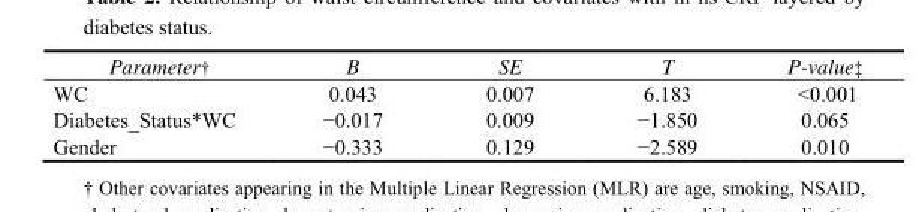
<table><thead><tr><td>Parameter†</td><td>B</td><td>SE</td><td>T</td><td>P-value‡</td></tr></thead><tbody><tr><td>WC</td><td>0.043</td><td>0.007</td><td>6.183</td><td>&lt;0.001</td></tr><tr><td>Diabetes_Status*WC</td><td>−0.017</td><td>0.009</td><td>−1.850</td><td>0.065</td></tr><tr><td>Gender</td><td>−0.333</td><td>0.129</td><td>−2.589</td><td>0.010</td></tr></tbody></table>